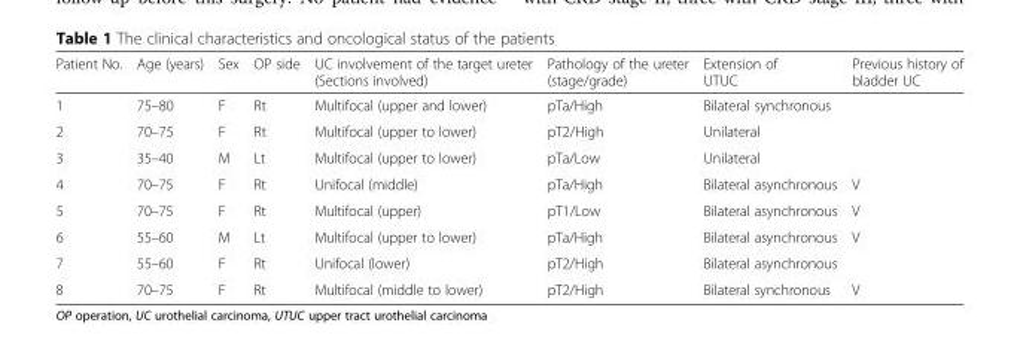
<table><thead><tr><td>Patient No.</td><td>Age (years)</td><td>Sex</td><td>OP side</td><td>UC involvement of the target ureter (Sections involved)</td><td>Pathology of the ureter (stage/grade)</td><td>Extension of UTUC</td><td>Previous history of bladder UC</td></tr></thead><tbody><tr><td>1</td><td>75–80</td><td>F</td><td>Rt</td><td>Multifocal (upper and lower)</td><td>pTa/High</td><td>Bilateral synchronous</td><td></td></tr><tr><td>2</td><td>70–75</td><td>F</td><td>Rt</td><td>Multifocal (upper to lower)</td><td>pT2/High</td><td>Unilateral</td><td></td></tr><tr><td>3</td><td>35–40</td><td>M</td><td>Lt</td><td>Multifocal (upper to lower)</td><td>pTa/Low</td><td>Unilateral</td><td></td></tr><tr><td>4</td><td>70–75</td><td>F</td><td>Rt</td><td>Unifocal (middle)</td><td>pTa/High</td><td>Bilateral asynchronous</td><td>V</td></tr><tr><td>5</td><td>70–75</td><td>F</td><td>Rt</td><td>Multifocal (upper)</td><td>pT1/Low</td><td>Bilateral asynchronous</td><td>V</td></tr><tr><td>6</td><td>55–60</td><td>M</td><td>Lt</td><td>Multifocal (upper to lower)</td><td>pTa/High</td><td>Bilateral asynchronous</td><td>V</td></tr><tr><td>7</td><td>55–60</td><td>F</td><td>Rt</td><td>Unifocal (lower)</td><td>pT2/High</td><td>Bilateral asynchronous</td><td></td></tr><tr><td>8</td><td>70–75</td><td>F</td><td>Rt</td><td>Multifocal (middle to lower)</td><td>pT2/High</td><td>Bilateral synchronous</td><td>V</td></tr></tbody></table>